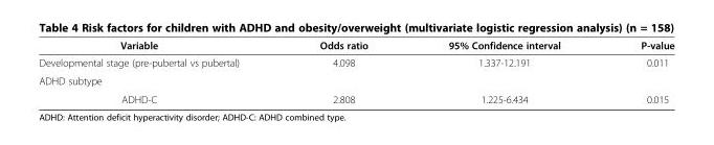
<table><thead><tr><td>Variable</td><td>Odds ratio</td><td>95% Confidence interval</td><td>P-value</td></tr></thead><tbody><tr><td>Developmental stage (pre-pubertal vs pubertal)</td><td>4.098</td><td>1.337-12.191</td><td>0.011</td></tr><tr><td colspan="4">ADHD subtype</td></tr><tr><td>ADHD-C</td><td>2.808</td><td>1.225-6.434</td><td>0.015</td></tr></tbody></table>